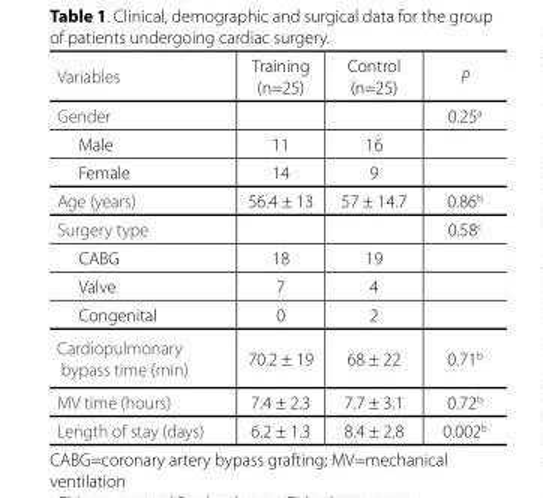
<table><thead><tr><td>Variables</td><td>Training (n=25)</td><td>Control (n=25)</td><td>P</td></tr></thead><tbody><tr><td>Gender</td><td></td><td></td><td>0.25<sup>a</sup></td></tr><tr><td>Male</td><td>11</td><td>16</td><td></td></tr><tr><td>Female</td><td>14</td><td>9</td><td></td></tr><tr><td>Age (years)</td><td>56.4 ± 13</td><td>57 ± 14.7</td><td>0.86<sup>b</sup></td></tr><tr><td>Surgery type</td><td></td><td></td><td>0.58<sup>c</sup></td></tr><tr><td>CABG</td><td>18</td><td>19</td><td></td></tr><tr><td>Valve</td><td>7</td><td>4</td><td></td></tr><tr><td>Congenital</td><td>0</td><td>2</td><td></td></tr><tr><td>Cardiopulmonary bypass time (min)</td><td>70.2 ± 19</td><td>68 ± 22</td><td>0.71<sup>b</sup></td></tr><tr><td>MV time (hours)</td><td>7.4 ± 2.3</td><td>7.7 ± 3.1</td><td>0.72<sup>b</sup></td></tr><tr><td>Length of stay (days)</td><td>6.2 ± 1.3</td><td>8.4 ± 2.8</td><td>0.002<sup>b</sup></td></tr></tbody></table>